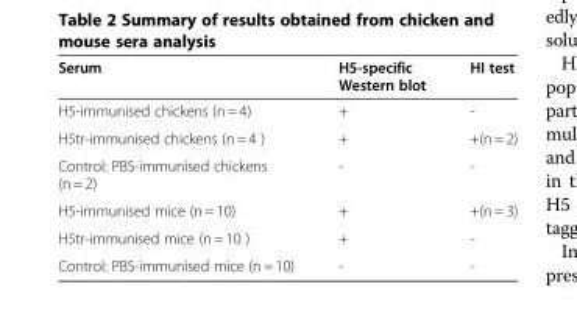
<table><thead><tr><td>Serum</td><td>H5-specific Western blot</td><td>HI test</td></tr></thead><tbody><tr><td>H5-immunised chickens (n = 4)</td><td>+</td><td>-</td></tr><tr><td>H5tr-immunised chickens (n = 4 )</td><td>+</td><td>+(n = 2)</td></tr><tr><td>Control: PBS-immunised chickens (n = 2)</td><td>-</td><td>-</td></tr><tr><td>H5-immunised mice (n = 10)</td><td>+</td><td>+(n = 3)</td></tr><tr><td>H5tr-immunised mice (n = 10 )</td><td>+</td><td>-</td></tr><tr><td>Control: PBS-immunised mice (n = 10)</td><td>-</td><td>-</td></tr></tbody></table>